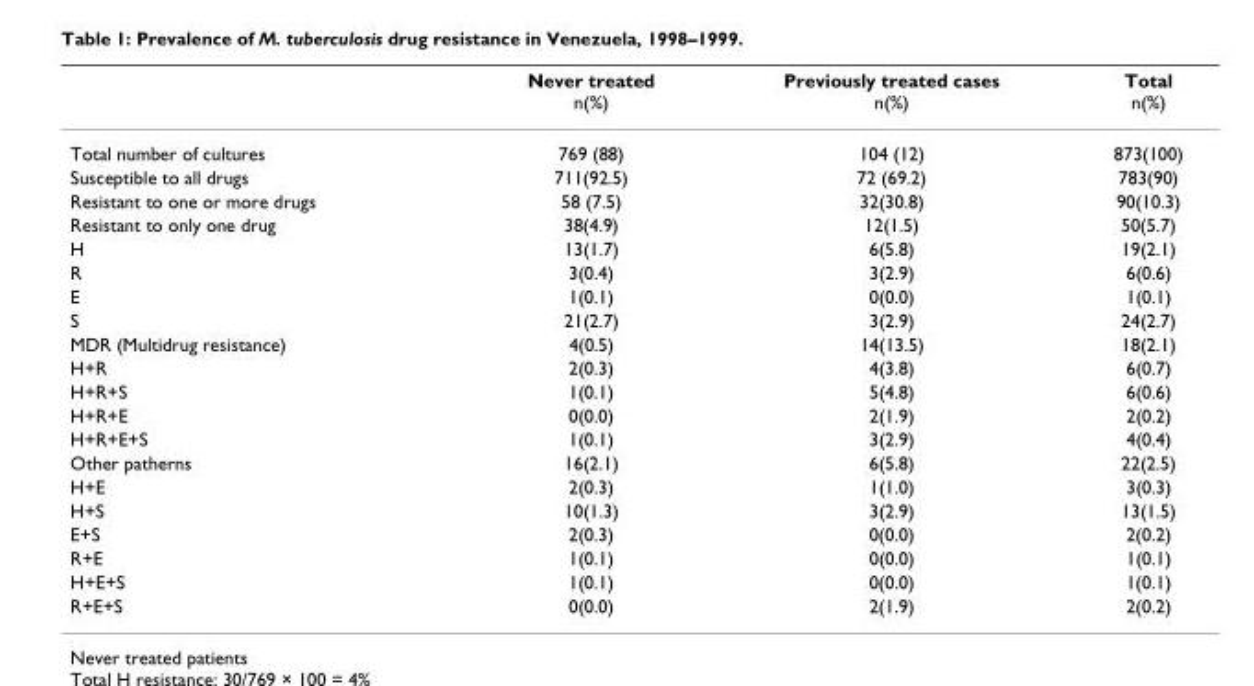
<table><thead><tr><td></td><td>Never treated n(%)</td><td>Previously treated cases n(%)</td><td>Total n(%)</td></tr></thead><tbody><tr><td>Total number of cultures</td><td>769 (88)</td><td>104 (12)</td><td>873(100)</td></tr><tr><td>Susceptible to all drugs</td><td>711(92.5)</td><td>72 (69.2)</td><td>783(90)</td></tr><tr><td>Resistant to one or more drugs</td><td>58 (7.5)</td><td>32(30.8)</td><td>90(10.3)</td></tr><tr><td>Resistant to only one drug</td><td>38(4.9)</td><td>12(1.5)</td><td>50(5.7)</td></tr><tr><td>H</td><td>13(1.7)</td><td>6(5.8)</td><td>19(2.1)</td></tr><tr><td>R</td><td>3(0.4)</td><td>3(2.9)</td><td>6(0.6)</td></tr><tr><td>E</td><td>1(0.1)</td><td>0(0.0)</td><td>1(0.1)</td></tr><tr><td>S</td><td>21(2.7)</td><td>3(2.9)</td><td>24(2.7)</td></tr><tr><td>MDR (Multidrug resistance)</td><td>4(0.5)</td><td>14(13.5)</td><td>18(2.1)</td></tr><tr><td>H+R</td><td>2(0.3)</td><td>4(3.8)</td><td>6(0.7)</td></tr><tr><td>H+R+S</td><td>1(0.1)</td><td>5(4.8)</td><td>6(0.6)</td></tr><tr><td>H+R+E</td><td>0(0.0)</td><td>2(1.9)</td><td>2(0.2)</td></tr><tr><td>H+R+E+S</td><td>1(0.1)</td><td>3(2.9)</td><td>4(0.4)</td></tr><tr><td>Other patherns</td><td>16(2.1)</td><td>6(5.8)</td><td>22(2.5)</td></tr><tr><td>H+E</td><td>2(0.3)</td><td>1(1.0)</td><td>3(0.3)</td></tr><tr><td>H+S</td><td>10(1.3)</td><td>3(2.9)</td><td>13(1.5)</td></tr><tr><td>E+S</td><td>2(0.3)</td><td>0(0.0)</td><td>2(0.2)</td></tr><tr><td>R+E</td><td>1(0.1)</td><td>0(0.0)</td><td>1(0.1)</td></tr><tr><td>H+E+S</td><td>1(0.1)</td><td>0(0.0)</td><td>1(0.1)</td></tr><tr><td>R+E+S</td><td>0(0.0)</td><td>2(1.9)</td><td>2(0.2)</td></tr></tbody></table>